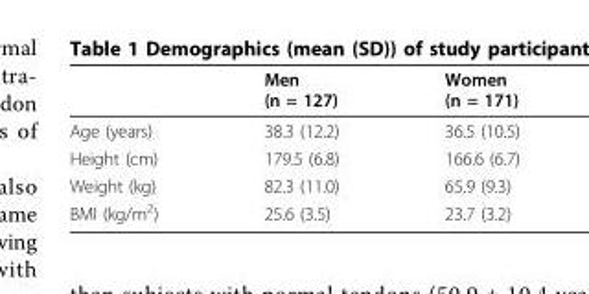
<table><thead><tr><td></td><td>Men (n = 127)</td><td>Women (n = 171)</td></tr></thead><tbody><tr><td>Age (years)</td><td>38.3 (12.2)</td><td>36.5 (10.5)</td></tr><tr><td>Height (cm)</td><td>179.5 (6.8)</td><td>166.6 (6.7)</td></tr><tr><td>Weight (kg)</td><td>82.3 (11.0)</td><td>65.9 (9.3)</td></tr><tr><td>BMI (kg/m<sup>2</sup>)</td><td>25.6 (3.5)</td><td>23.7 (3.2)</td></tr></tbody></table>